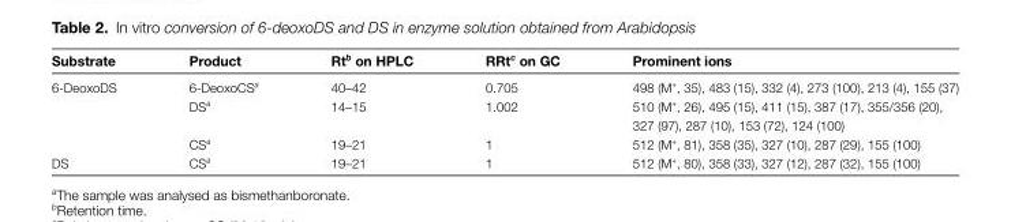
<table><thead><tr><td>Substrate</td><td>Product</td><td>Rt<sup>b</sup> on HPLC</td><td>RRt<sup>c</sup> on GC</td><td>Prominent ions</td></tr></thead><tbody><tr><td rowspan="3">6-DeoxoDS</td><td>6-DeoxoCS<sup>a</sup></td><td>40–42</td><td>0.705</td><td>498 (M<sup>+</sup>, 35), 483 (15), 332 (4), 273 (100), 213 (4), 155 (37)</td></tr><tr><td>DS<sup>a</sup></td><td>14–15</td><td>1.002</td><td>510 (M<sup>+</sup>, 26), 495 (15), 411 (15), 387 (17), 355/356 (20), 327 (97), 287 (10), 153 (72), 124 (100)</td></tr><tr><td>CS<sup>a</sup></td><td>19–21</td><td>1</td><td>512 (M<sup>+</sup>, 81), 358 (35), 327 (10), 287 (29), 155 (100)</td></tr><tr><td>DS</td><td>CS<sup>a</sup></td><td>19–21</td><td>1</td><td>512 (M<sup>+</sup>, 80), 358 (33), 327 (12), 287 (32), 155 (100)</td></tr></tbody></table>